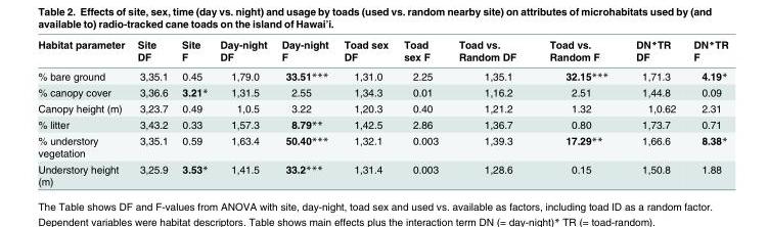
<table><thead><tr><td>Habitat parameter</td><td>Site DF</td><td>Site F</td><td>Day-night DF</td><td>Day-night F</td><td>Toad sex DF</td><td>Toad sex F</td><td>Toad vs. Random DF</td><td>Toad vs. Random F</td><td>DN*TR DF</td><td>DN*TR F</td></tr></thead><tbody><tr><td>% bare ground</td><td>3,35.1</td><td>0.45</td><td>1,79.0</td><td>33.51***</td><td>1,31.0</td><td>2.25</td><td>1,35.1</td><td>32.15***</td><td>1,71.3</td><td>4.19*</td></tr><tr><td>% canopy cover</td><td>3,36.6</td><td>3.21*</td><td>1,31.5</td><td>2.55</td><td>1,34.3</td><td>0.01</td><td>1,16.2</td><td>2.51</td><td>1,44.8</td><td>0.09</td></tr><tr><td>Canopy height (m)</td><td>3,23.7</td><td>0.49</td><td>1,0.5</td><td>3.22</td><td>1,20.3</td><td>0.40</td><td>1,21.2</td><td>1.32</td><td>1,0.62</td><td>2.31</td></tr><tr><td>% litter</td><td>3,43.2</td><td>0.33</td><td>1,57.3</td><td>8.79**</td><td>1,42.5</td><td>2.86</td><td>1,36.7</td><td>0.80</td><td>1,73.7</td><td>0.71</td></tr><tr><td>% understory vegetation</td><td>3,35.1</td><td>0.59</td><td>1,63.4</td><td>50.40***</td><td>1,32.1</td><td>0.003</td><td>1,39.3</td><td>17.29**</td><td>1,66.6</td><td>8.38*</td></tr><tr><td>Understory height (m)</td><td>3,25.9</td><td>3.53*</td><td>1,41.5</td><td>33.2***</td><td>1,31.4</td><td>0.003</td><td>1,28.6</td><td>0.15</td><td>1,50.8</td><td>1.88</td></tr></tbody></table>